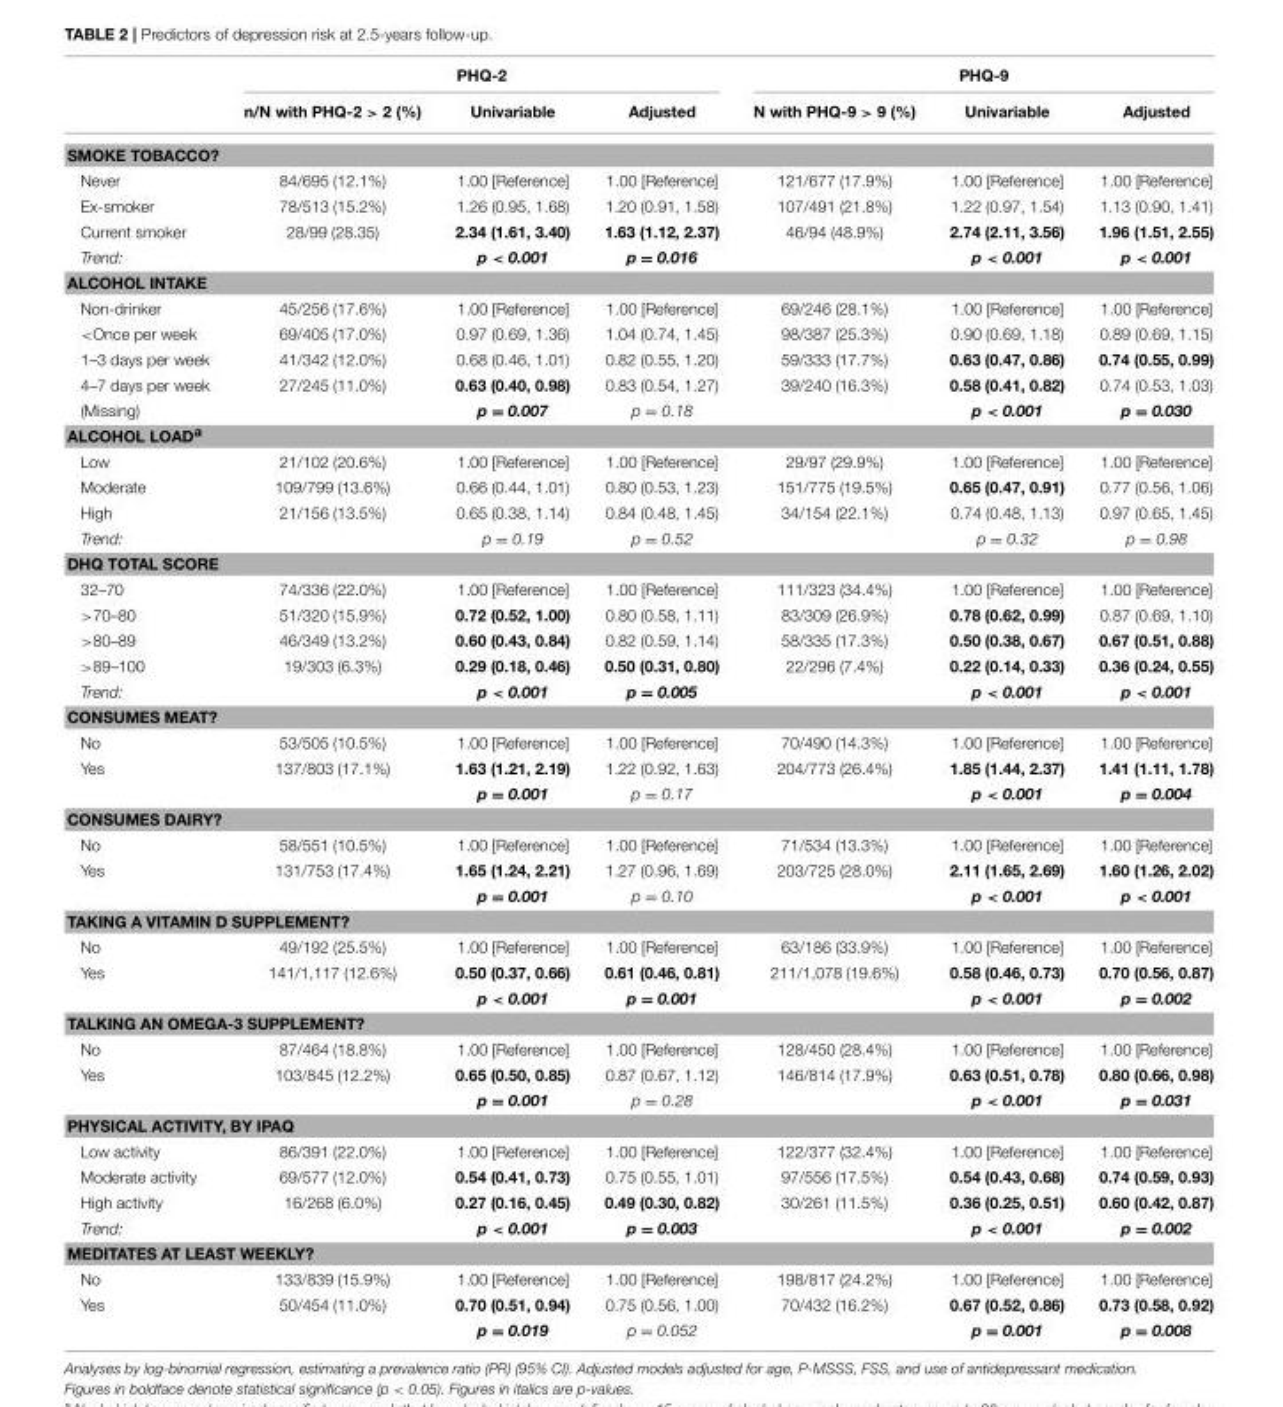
<table><thead><tr><td rowspan="2"></td><td colspan="3">PHQ-2</td><td colspan="3">PHQ-9</td></tr><tr><td>n/N with PHQ-2 &gt; 2 (%)</td><td>Univariable</td><td>Adjusted</td><td>N with PHQ-9 &gt; 9 (%)</td><td>Univariable</td><td>Adjusted</td></tr></thead><tbody><tr><td colspan="7">SMOKE TOBACCO?</td></tr><tr><td>Never</td><td>84/695 (12.1%)</td><td>1.00 [Reference]</td><td>1.00 [Reference]</td><td>121/677 (17.9%)</td><td>1.00 [Reference]</td><td>1.00 [Reference]</td></tr><tr><td>Ex-smoker</td><td>78/513 (15.2%)</td><td>1.26 (0.95, 1.68)</td><td>1.20 (0.91, 1.58)</td><td>107/491 (21.8%)</td><td>1.22 (0.97, 1.54)</td><td>1.13 (0.90, 1.41)</td></tr><tr><td>Current smoker</td><td>28/99 (28.35)</td><td>2.34 (1.61, 3.40)</td><td>1.63 (1.12, 2.37)</td><td>46/94 (48.9%)</td><td>2.74 (2.11, 3.56)</td><td>1.96 (1.51, 2.55)</td></tr><tr><td>Trend:</td><td></td><td>p &lt; 0.001</td><td>p = 0.016</td><td></td><td>p &lt; 0.001</td><td>p &lt; 0.001</td></tr><tr><td colspan="7">ALCOHOL INTAKE</td></tr><tr><td>Non-drinker</td><td>45/256 (17.6%)</td><td>1.00 [Reference]</td><td>1.00 [Reference]</td><td>69/246 (28.1%)</td><td>1.00 [Reference]</td><td>1.00 [Reference]</td></tr><tr><td>&lt;Once per week</td><td>69/405 (17.0%)</td><td>0.97 (0.69, 1.36)</td><td>1.04 (0.74, 1.45)</td><td>98/387 (25.3%)</td><td>0.90 (0.69, 1.18)</td><td>0.89 (0.69, 1.15)</td></tr><tr><td>1–3 days per week</td><td>41/342 (12.0%)</td><td>0.68 (0.46, 1.01)</td><td>0.82 (0.55, 1.20)</td><td>59/333 (17.7%)</td><td>0.63 (0.47, 0.86)</td><td>0.74 (0.55, 0.99)</td></tr><tr><td>4–7 days per week</td><td>27/245 (11.0%)</td><td>0.63 (0.40, 0.98)</td><td>0.83 (0.54, 1.27)</td><td>39/240 (16.3%)</td><td>0.58 (0.41, 0.82)</td><td>0.74 (0.53, 1.03)</td></tr><tr><td>(Missing)</td><td></td><td>p = 0.007</td><td>p = 0.18</td><td></td><td>p &lt; 0.001</td><td>p = 0.030</td></tr><tr><td colspan="7">ALCOHOL LOAD<sup>a</sup></td></tr><tr><td>Low</td><td>21/102 (20.6%)</td><td>1.00 [Reference]</td><td>1.00 [Reference]</td><td>29/97 (29.9%)</td><td>1.00 [Reference]</td><td>1.00 [Reference]</td></tr><tr><td>Moderate</td><td>109/799 (13.6%)</td><td>0.66 (0.44, 1.01)</td><td>0.80 (0.53, 1.23)</td><td>151/775 (19.5%)</td><td>0.65 (0.47, 0.91)</td><td>0.77 (0.56, 1.06)</td></tr><tr><td>High</td><td>21/156 (13.5%)</td><td>0.65 (0.38, 1.14)</td><td>0.84 (0.48, 1.45)</td><td>34/154 (22.1%)</td><td>0.74 (0.48, 1.13)</td><td>0.97 (0.65, 1.45)</td></tr><tr><td>Trend:</td><td></td><td>p = 0.19</td><td>p = 0.52</td><td></td><td>p = 0.32</td><td>p = 0.98</td></tr><tr><td colspan="7">DHQ TOTAL SCORE</td></tr><tr><td>32–70</td><td>74/336 (22.0%)</td><td>1.00 [Reference]</td><td>1.00 [Reference]</td><td>111/323 (34.4%)</td><td>1.00 [Reference]</td><td>1.00 [Reference]</td></tr><tr><td>&gt;70–80</td><td>51/320 (15.9%)</td><td>0.72 (0.52, 1.00)</td><td>0.80 (0.58, 1.11)</td><td>83/309 (26.9%)</td><td>0.78 (0.62, 0.99)</td><td>0.87 (0.69, 1.10)</td></tr><tr><td>&gt;80–89</td><td>46/349 (13.2%)</td><td>0.60 (0.43, 0.84)</td><td>0.82 (0.59, 1.14)</td><td>58/335 (17.3%)</td><td>0.50 (0.38, 0.67)</td><td>0.67 (0.51, 0.88)</td></tr><tr><td>&gt;89–100</td><td>19/303 (6.3%)</td><td>0.29 (0.18, 0.46)</td><td>0.50 (0.31, 0.80)</td><td>22/296 (7.4%)</td><td>0.22 (0.14, 0.33)</td><td>0.36 (0.24, 0.55)</td></tr><tr><td>Trend:</td><td></td><td>p &lt; 0.001</td><td>p = 0.005</td><td></td><td>p &lt; 0.001</td><td>p &lt; 0.001</td></tr><tr><td colspan="7">CONSUMES MEAT?</td></tr><tr><td>No</td><td>53/505 (10.5%)</td><td>1.00 [Reference]</td><td>1.00 [Reference]</td><td>70/490 (14.3%)</td><td>1.00 [Reference]</td><td>1.00 [Reference]</td></tr><tr><td rowspan="2">Yes</td><td>137/803 (17.1%)</td><td>1.63 (1.21, 2.19)</td><td>1.22 (0.92, 1.63)</td><td>204/773 (26.4%)</td><td>1.85 (1.44, 2.37)</td><td>1.41 (1.11, 1.78)</td></tr><tr><td></td><td>p = 0.001</td><td>p = 0.17</td><td></td><td>p &lt; 0.001</td><td>p = 0.004</td></tr><tr><td colspan="7">CONSUMES DAIRY?</td></tr><tr><td>No</td><td>58/551 (10.5%)</td><td>1.00 [Reference]</td><td>1.00 [Reference]</td><td>71/534 (13.3%)</td><td>1.00 [Reference]</td><td>1.00 [Reference]</td></tr><tr><td rowspan="2">Yes</td><td>131/753 (17.4%)</td><td>1.65 (1.24, 2.21)</td><td>1.27 (0.96, 1.69)</td><td>203/725 (28.0%)</td><td>2.11 (1.65, 2.69)</td><td>1.60 (1.26, 2.02)</td></tr><tr><td></td><td>p = 0.001</td><td>p = 0.10</td><td></td><td>p &lt; 0.001</td><td>p &lt; 0.001</td></tr><tr><td colspan="7">TAKING A VITAMIN D SUPPLEMENT?</td></tr><tr><td>No</td><td>49/192 (25.5%)</td><td>1.00 [Reference]</td><td>1.00 [Reference]</td><td>63/186 (33.9%)</td><td>1.00 [Reference]</td><td>1.00 [Reference]</td></tr><tr><td rowspan="2">Yes</td><td>141/1,117 (12.6%)</td><td>0.50 (0.37, 0.66)</td><td>0.61 (0.46, 0.81)</td><td>211/1,078 (19.6%)</td><td>0.58 (0.46, 0.73)</td><td>0.70 (0.56, 0.87)</td></tr><tr><td></td><td>p &lt; 0.001</td><td>p = 0.001</td><td></td><td>p &lt; 0.001</td><td>p = 0.002</td></tr><tr><td colspan="7">TALKING AN OMEGA-3 SUPPLEMENT?</td></tr><tr><td>No</td><td>87/464 (18.8%)</td><td>1.00 [Reference]</td><td>1.00 [Reference]</td><td>128/450 (28.4%)</td><td>1.00 [Reference]</td><td>1.00 [Reference]</td></tr><tr><td rowspan="2">Yes</td><td>103/845 (12.2%)</td><td>0.65 (0.50, 0.85)</td><td>0.87 (0.67, 1.12)</td><td>146/814 (17.9%)</td><td>0.63 (0.51, 0.78)</td><td>0.80 (0.66, 0.98)</td></tr><tr><td></td><td>p = 0.001</td><td>p = 0.28</td><td></td><td>p &lt; 0.001</td><td>p = 0.031</td></tr><tr><td colspan="7">PHYSICAL ACTIVITY, BY IPAQ</td></tr><tr><td>Low activity</td><td>86/391 (22.0%)</td><td>1.00 [Reference]</td><td>1.00 [Reference]</td><td>122/377 (32.4%)</td><td>1.00 [Reference]</td><td>1.00 [Reference]</td></tr><tr><td>Moderate activity</td><td>69/577 (12.0%)</td><td>0.54 (0.41, 0.73)</td><td>0.75 (0.55, 1.01)</td><td>97/556 (17.5%)</td><td>0.54 (0.43, 0.68)</td><td>0.74 (0.59, 0.93)</td></tr><tr><td>High activity</td><td>16/268 (6.0%)</td><td>0.27 (0.16, 0.45)</td><td>0.49 (0.30, 0.82)</td><td>30/261 (11.5%)</td><td>0.36 (0.25, 0.51)</td><td>0.60 (0.42, 0.87)</td></tr><tr><td>Trend:</td><td></td><td>p &lt; 0.001</td><td>p = 0.003</td><td></td><td>p &lt; 0.001</td><td>p = 0.002</td></tr><tr><td colspan="7">MEDITATES AT LEAST WEEKLY?</td></tr><tr><td>No</td><td>133/839 (15.9%)</td><td>1.00 [Reference]</td><td>1.00 [Reference]</td><td>198/817 (24.2%)</td><td>1.00 [Reference]</td><td>1.00 [Reference]</td></tr><tr><td rowspan="2">Yes</td><td>50/454 (11.0%)</td><td>0.70 (0.51, 0.94)</td><td>0.75 (0.56, 1.00)</td><td>70/432 (16.2%)</td><td>0.67 (0.52, 0.86)</td><td>0.73 (0.58, 0.92)</td></tr><tr><td></td><td>p = 0.019</td><td>p = 0.052</td><td></td><td>p = 0.001</td><td>p = 0.008</td></tr></tbody></table>